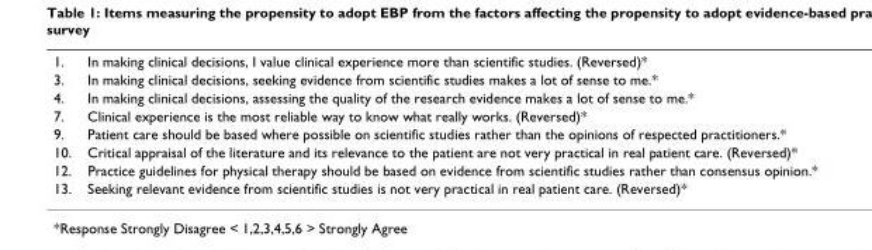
<table><tbody><tr><td>1.</td><td>In making clinical decisions, I value clinical experience more than scientific studies. (Reversed)*</td></tr><tr><td>3.</td><td>In making clinical decisions, seeking evidence from scientific studies makes a lot of sense to me.*</td></tr><tr><td>4.</td><td>In making clinical decisions, assessing the quality of the research evidence makes a lot of sense to me.*</td></tr><tr><td>7.</td><td>Clinical experience is the most reliable way to know what really works. (Reversed)*</td></tr><tr><td>9.</td><td>Patient care should be based where possible on scientific studies rather than the opinions of respected practitioners.*</td></tr><tr><td>10.</td><td>Critical appraisal of the literature and its relevance to the patient are not very practical in real patient care. (Reversed)*</td></tr><tr><td>12.</td><td>Practice guidelines for physical therapy should be based on evidence from scientific studies rather than consensus opinion.*</td></tr><tr><td>13.</td><td>Seeking relevant evidence from scientific studies is not very practical in real patient care. (Reversed)*</td></tr></tbody></table>